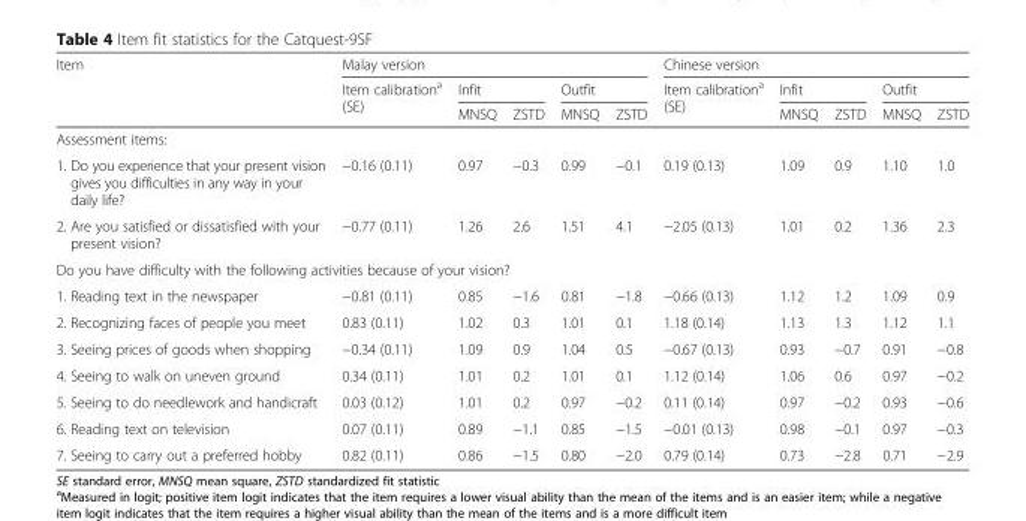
<table><thead><tr><td rowspan="3">Item</td><td colspan="5">Malay version</td><td colspan="5">Chinese version</td></tr><tr><td rowspan="2">Item calibration<sup>a</sup> (SE)</td><td colspan="2">Infit</td><td colspan="2">Outfit</td><td rowspan="2">Item calibration<sup>a</sup> (SE)</td><td colspan="2">Infit</td><td colspan="2">Outfit</td></tr><tr><td>MNSQ</td><td>ZSTD</td><td>MNSQ</td><td>ZSTD</td><td>MNSQ</td><td>ZSTD</td><td>MNSQ</td><td>ZSTD</td></tr></thead><tbody><tr><td colspan="11">Assessment items:</td></tr><tr><td>1. Do you experience that your present vision gives you difficulties in any way in your daily life?</td><td>−0.16 (0.11)</td><td>0.97</td><td>−0.3</td><td>0.99</td><td>−0.1</td><td>0.19 (0.13)</td><td>1.09</td><td>0.9</td><td>1.10</td><td>1.0</td></tr><tr><td>2. Are you satisfied or dissatisfied with your present vision?</td><td>−0.77 (0.11)</td><td>1.26</td><td>2.6</td><td>1.51</td><td>4.1</td><td>−2.05 (0.13)</td><td>1.01</td><td>0.2</td><td>1.36</td><td>2.3</td></tr><tr><td colspan="11">Do you have difficulty with the following activities because of your vision?</td></tr><tr><td>1. Reading text in the newspaper</td><td>−0.81 (0.11)</td><td>0.85</td><td>−1.6</td><td>0.81</td><td>−1.8</td><td>−0.66 (0.13)</td><td>1.12</td><td>1.2</td><td>1.09</td><td>0.9</td></tr><tr><td>2. Recognizing faces of people you meet</td><td>0.83 (0.11)</td><td>1.02</td><td>0.3</td><td>1.01</td><td>0.1</td><td>1.18 (0.14)</td><td>1.13</td><td>1.3</td><td>1.12</td><td>1.1</td></tr><tr><td>3. Seeing prices of goods when shopping</td><td>−0.34 (0.11)</td><td>1.09</td><td>0.9</td><td>1.04</td><td>0.5</td><td>−0.67 (0.13)</td><td>0.93</td><td>−0.7</td><td>0.91</td><td>−0.8</td></tr><tr><td>4. Seeing to walk on uneven ground</td><td>0.34 (0.11)</td><td>1.01</td><td>0.2</td><td>1.01</td><td>0.1</td><td>1.12 (0.14)</td><td>1.06</td><td>0.6</td><td>0.97</td><td>−0.2</td></tr><tr><td>5. Seeing to do needlework and handicraft</td><td>0.03 (0.12)</td><td>1.01</td><td>0.2</td><td>0.97</td><td>−0.2</td><td>0.11 (0.14)</td><td>0.97</td><td>−0.2</td><td>0.93</td><td>−0.6</td></tr><tr><td>6. Reading text on television</td><td>0.07 (0.11)</td><td>0.89</td><td>−1.1</td><td>0.85</td><td>−1.5</td><td>−0.01 (0.13)</td><td>0.98</td><td>−0.1</td><td>0.97</td><td>−0.3</td></tr><tr><td>7. Seeing to carry out a preferred hobby</td><td>0.82 (0.11)</td><td>0.86</td><td>−1.5</td><td>0.80</td><td>−2.0</td><td>0.79 (0.14)</td><td>0.73</td><td>−2.8</td><td>0.71</td><td>−2.9</td></tr></tbody></table>